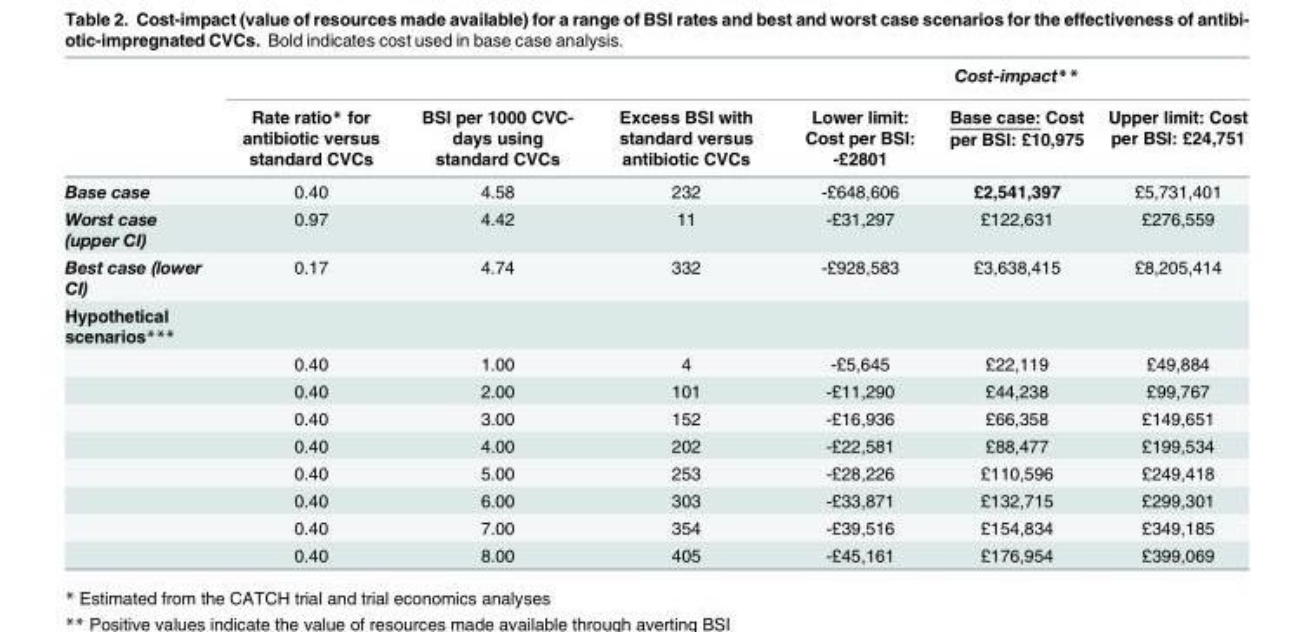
<table><thead><tr><td rowspan="2"></td><td rowspan="2">Rate ratio* for antibiotic versus standard CVCs</td><td rowspan="2">BSI per 1000 CVC- days using standard CVCs</td><td rowspan="2">Excess BSI with standard versus antibiotic CVCs</td><td rowspan="2">Lower limit: Cost per BSI: -£2801</td><td rowspan="2">Cost-impact** Base case: Cost per BSI: £10,975</td><td rowspan="2">Upper limit: Cost per BSI: £24,751</td></tr><tr></tr></thead><tbody><tr><td>Base case</td><td>0.40</td><td>4.58</td><td>232</td><td>-£648,606</td><td>£2,541,397</td><td>£5,731,401</td></tr><tr><td>Worst case (upper CI)</td><td>0.97</td><td>4.42</td><td>11</td><td>-£31,297</td><td>£122,631</td><td>£276,559</td></tr><tr><td>Best case (lower CI)</td><td>0.17</td><td>4.74</td><td>332</td><td>-£928,583</td><td>£3,638,415</td><td>£8,205,414</td></tr><tr><td colspan="7">Hypothetical scenarios***</td></tr><tr><td></td><td>0.40</td><td>1.00</td><td>4</td><td>-£5,645</td><td>£22,119</td><td>£49,884</td></tr><tr><td></td><td>0.40</td><td>2.00</td><td>101</td><td>-£11,290</td><td>£44,238</td><td>£99,767</td></tr><tr><td></td><td>0.40</td><td>3.00</td><td>152</td><td>-£16,936</td><td>£66,358</td><td>£149,651</td></tr><tr><td></td><td>0.40</td><td>4.00</td><td>202</td><td>-£22,581</td><td>£88,477</td><td>£199,534</td></tr><tr><td></td><td>0.40</td><td>5.00</td><td>253</td><td>-£28,226</td><td>£110,596</td><td>£249,418</td></tr><tr><td></td><td>0.40</td><td>6.00</td><td>303</td><td>-£33,871</td><td>£132,715</td><td>£299,301</td></tr><tr><td></td><td>0.40</td><td>7.00</td><td>354</td><td>-£39,516</td><td>£154,834</td><td>£349,185</td></tr><tr><td></td><td>0.40</td><td>8.00</td><td>405</td><td>-£45,161</td><td>£176,954</td><td>£399,069</td></tr></tbody></table>